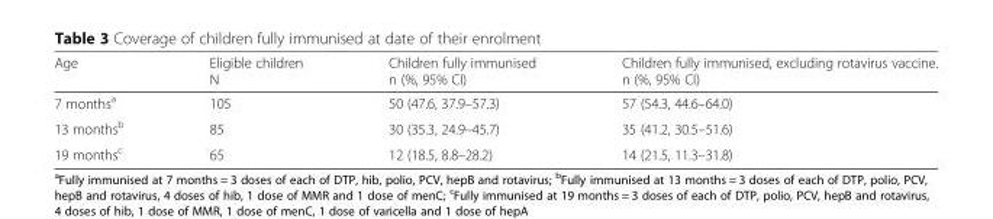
<table><thead><tr><td>Age</td><td>Eligible children N</td><td>Children fully immunised n (%, 95% CI)</td><td>Children fully immunised, excluding rotavirus vaccine. n (%, 95% CI)</td></tr></thead><tbody><tr><td>7 months<sup>a</sup></td><td>105</td><td>50 (47.6, 37.9–57.3)</td><td>57 (54.3, 44.6–64.0)</td></tr><tr><td>13 months<sup>b</sup></td><td>85</td><td>30 (35.3, 24.9–45.7)</td><td>35 (41.2, 30.5–51.6)</td></tr><tr><td>19 months<sup>c</sup></td><td>65</td><td>12 (18.5, 8.8–28.2)</td><td>14 (21.5, 11.3–31.8)</td></tr></tbody></table>